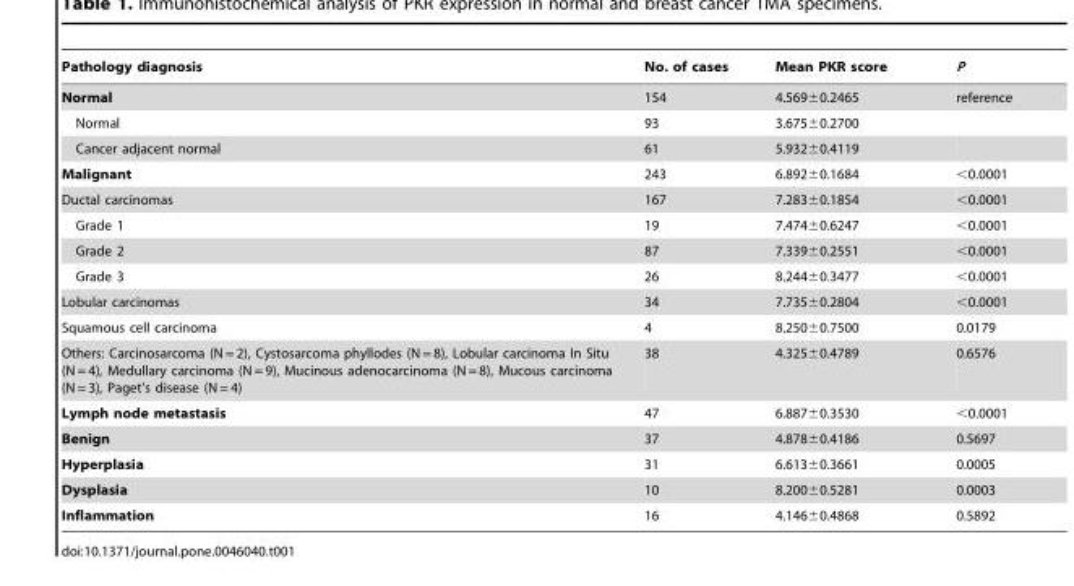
<table><thead><tr><td>Pathology diagnosis</td><td>No. of cases</td><td>Mean PKR score</td><td>P</td></tr></thead><tbody><tr><td>Normal</td><td>154</td><td>4.569±0.2465</td><td>reference</td></tr><tr><td>Normal</td><td>93</td><td>3.675±0.2700</td><td></td></tr><tr><td>Cancer adjacent normal</td><td>61</td><td>5.932±0.4119</td><td></td></tr><tr><td>Malignant</td><td>243</td><td>6.892±0.1684</td><td>&lt;0.0001</td></tr><tr><td>Ductal carcinomas</td><td>167</td><td>7.283±0.1854</td><td>&lt;0.0001</td></tr><tr><td>Grade 1</td><td>19</td><td>7.474±0.6247</td><td>&lt;0.0001</td></tr><tr><td>Grade 2</td><td>87</td><td>7.339±0.2551</td><td>&lt;0.0001</td></tr><tr><td>Grade 3</td><td>26</td><td>8.244±0.3477</td><td>&lt;0.0001</td></tr><tr><td>Lobular carcinomas</td><td>34</td><td>7.735±0.2804</td><td>&lt;0.0001</td></tr><tr><td>Squamous cell carcinoma</td><td>4</td><td>8.250±0.7500</td><td>0.0179</td></tr><tr><td>Others: Carcinosarcoma (N = 2), Cystosarcoma phyllodes (N = 8), Lobular carcinoma In Situ (N = 4), Medullary carcinoma (N = 9), Mucinous adenocarcinoma (N = 8), Mucous carcinoma (N = 3), Paget’s disease (N = 4)</td><td>38</td><td>4.325±0.4789</td><td>0.6576</td></tr><tr><td>Lymph node metastasis</td><td>47</td><td>6.887±0.3530</td><td>&lt;0.0001</td></tr><tr><td>Benign</td><td>37</td><td>4.878±0.4186</td><td>0.5697</td></tr><tr><td>Hyperplasia</td><td>31</td><td>6.613±0.3661</td><td>0.0005</td></tr><tr><td>Dysplasia</td><td>10</td><td>8.200±0.5281</td><td>0.0003</td></tr><tr><td>Inflammation</td><td>16</td><td>4.146±0.4868</td><td>0.5892</td></tr></tbody></table>